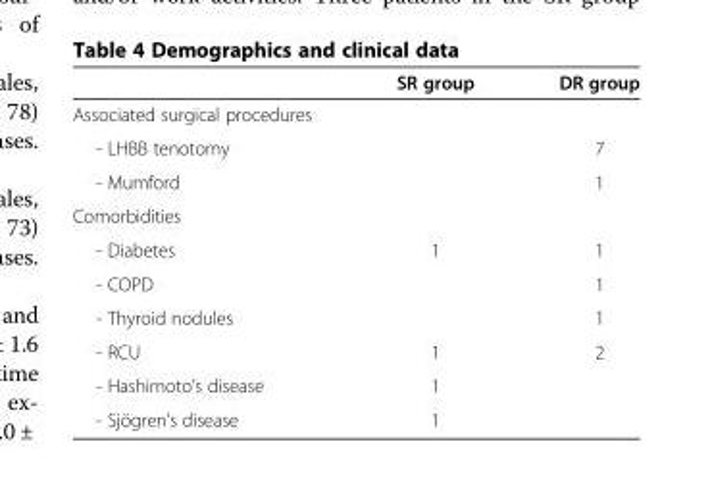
<table><thead><tr><td></td><td>SR group</td><td>DR group</td></tr></thead><tbody><tr><td colspan="3">Associated surgical procedures</td></tr><tr><td>- LHBB tenotomy</td><td></td><td>7</td></tr><tr><td>- Mumford</td><td></td><td>1</td></tr><tr><td colspan="3">Comorbidities</td></tr><tr><td>- Diabetes</td><td>1</td><td>1</td></tr><tr><td>- COPD</td><td></td><td>1</td></tr><tr><td>- Thyroid nodules</td><td></td><td>1</td></tr><tr><td>- RCU</td><td>1</td><td>2</td></tr><tr><td>- Hashimoto’s disease</td><td>1</td><td></td></tr><tr><td>- Sjögren’s disease</td><td>1</td><td></td></tr></tbody></table>